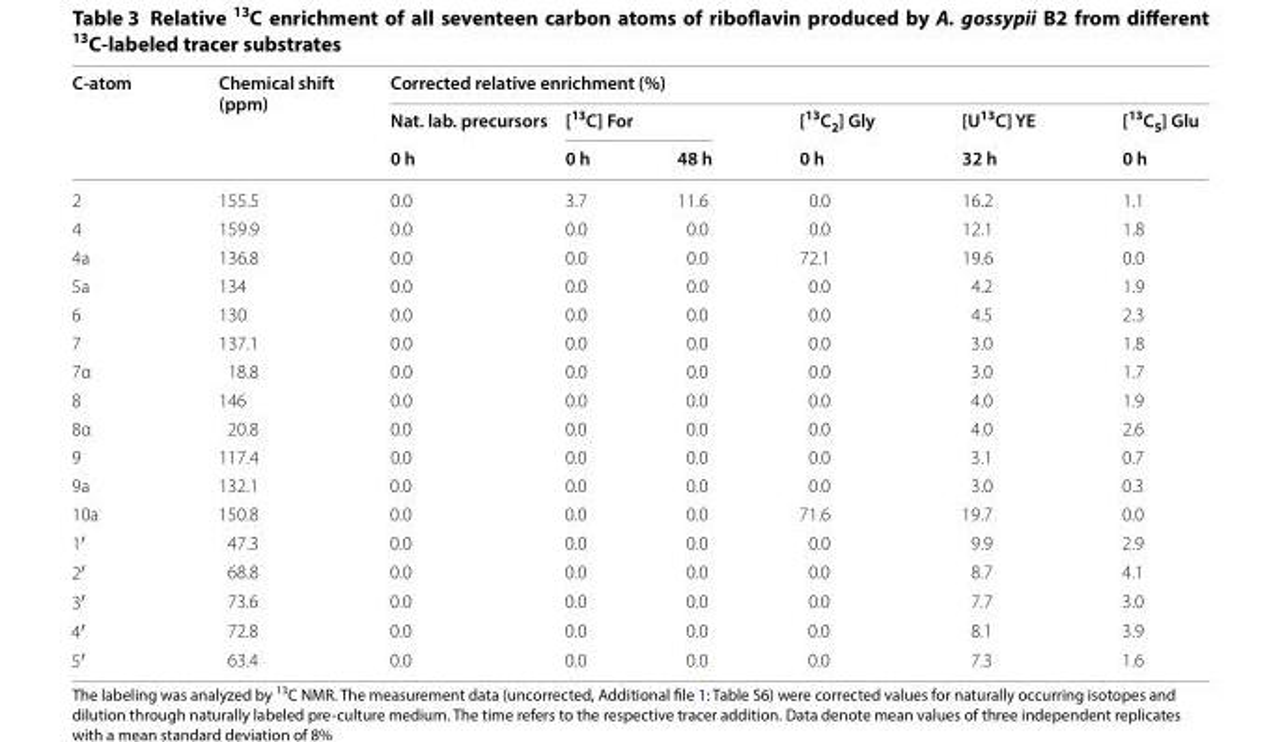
<table><thead><tr><td rowspan="3">C‑atom</td><td rowspan="3">Chemical shift (ppm)</td><td colspan="6">Corrected relative enrichment (%)</td></tr><tr><td rowspan="2">Nat. lab. precursors 0 h</td><td colspan="2">[<sup>13</sup>C] For</td><td rowspan="2">[<sup>13</sup>C<sub>2</sub>] Gly 0 h</td><td rowspan="2">[U<sup>13</sup>C] YE 32 h</td><td rowspan="2">[<sup>13</sup>C<sub>5</sub>] Glu 0 h</td></tr><tr><td>0 h</td><td>48 h</td></tr></thead><tbody><tr><td>2</td><td>155.5</td><td>0.0</td><td>3.7</td><td>11.6</td><td>0.0</td><td>16.2</td><td>1.1</td></tr><tr><td>4</td><td>159.9</td><td>0.0</td><td>0.0</td><td>0.0</td><td>0.0</td><td>12.1</td><td>1.8</td></tr><tr><td>4a</td><td>136.8</td><td>0.0</td><td>0.0</td><td>0.0</td><td>72.1</td><td>19.6</td><td>0.0</td></tr><tr><td>5a</td><td>134</td><td>0.0</td><td>0.0</td><td>0.0</td><td>0.0</td><td>4.2</td><td>1.9</td></tr><tr><td>6</td><td>130</td><td>0.0</td><td>0.0</td><td>0.0</td><td>0.0</td><td>4.5</td><td>2.3</td></tr><tr><td>7</td><td>137.1</td><td>0.0</td><td>0.0</td><td>0.0</td><td>0.0</td><td>3.0</td><td>1.8</td></tr><tr><td>7α</td><td>18.8</td><td>0.0</td><td>0.0</td><td>0.0</td><td>0.0</td><td>3.0</td><td>1.7</td></tr><tr><td>8</td><td>146</td><td>0.0</td><td>0.0</td><td>0.0</td><td>0.0</td><td>4.0</td><td>1.9</td></tr><tr><td>8α</td><td>20.8</td><td>0.0</td><td>0.0</td><td>0.0</td><td>0.0</td><td>4.0</td><td>2.6</td></tr><tr><td>9</td><td>117.4</td><td>0.0</td><td>0.0</td><td>0.0</td><td>0.0</td><td>3.1</td><td>0.7</td></tr><tr><td>9a</td><td>132.1</td><td>0.0</td><td>0.0</td><td>0.0</td><td>0.0</td><td>3.0</td><td>0.3</td></tr><tr><td>10a</td><td>150.8</td><td>0.0</td><td>0.0</td><td>0.0</td><td>71.6</td><td>19.7</td><td>0.0</td></tr><tr><td>1′</td><td>47.3</td><td>0.0</td><td>0.0</td><td>0.0</td><td>0.0</td><td>9.9</td><td>2.9</td></tr><tr><td>2′</td><td>68.8</td><td>0.0</td><td>0.0</td><td>0.0</td><td>0.0</td><td>8.7</td><td>4.1</td></tr><tr><td>3′</td><td>73.6</td><td>0.0</td><td>0.0</td><td>0.0</td><td>0.0</td><td>7.7</td><td>3.0</td></tr><tr><td>4′</td><td>72.8</td><td>0.0</td><td>0.0</td><td>0.0</td><td>0.0</td><td>8.1</td><td>3.9</td></tr><tr><td>5′</td><td>63.4</td><td>0.0</td><td>0.0</td><td>0.0</td><td>0.0</td><td>7.3</td><td>1.6</td></tr></tbody></table>